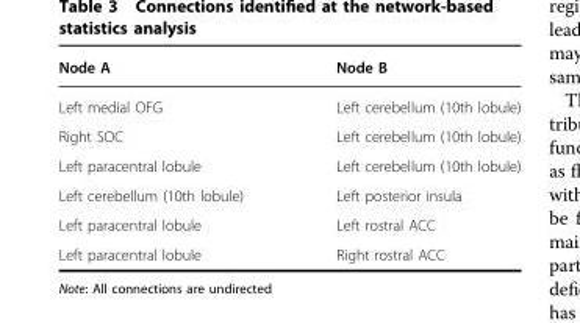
<table><thead><tr><td>Node A</td><td>Node B</td></tr></thead><tbody><tr><td>Left medial OFG</td><td>Left cerebellum (10th lobule)</td></tr><tr><td>Right SOC</td><td>Left cerebellum (10th lobule)</td></tr><tr><td>Left paracentral lobule</td><td>Left cerebellum (10th lobule)</td></tr><tr><td>Left cerebellum (10th lobule)</td><td>Left posterior insula</td></tr><tr><td>Left paracentral lobule</td><td>Left rostral ACC</td></tr><tr><td>Left paracentral lobule</td><td>Right rostral ACC</td></tr></tbody></table>